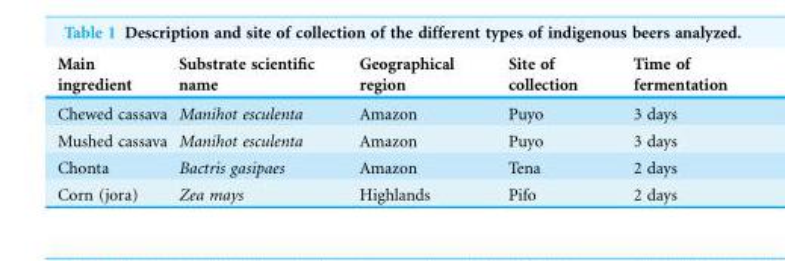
<table><thead><tr><td>Main ingredient</td><td>Substrate scientific name</td><td>Geographical region</td><td>Site of collection</td><td>Time of fermentation</td></tr></thead><tbody><tr><td>Chewed cassava</td><td>Manihot esculenta</td><td>Amazon</td><td>Puyo</td><td>3 days</td></tr><tr><td>Mushed cassava</td><td>Manihot esculenta</td><td>Amazon</td><td>Puyo</td><td>3 days</td></tr><tr><td>Chonta</td><td>Bactris gasipaes</td><td>Amazon</td><td>Tena</td><td>2 days</td></tr><tr><td>Corn (jora)</td><td>Zea mays</td><td>Highlands</td><td>Pifo</td><td>2 days</td></tr></tbody></table>